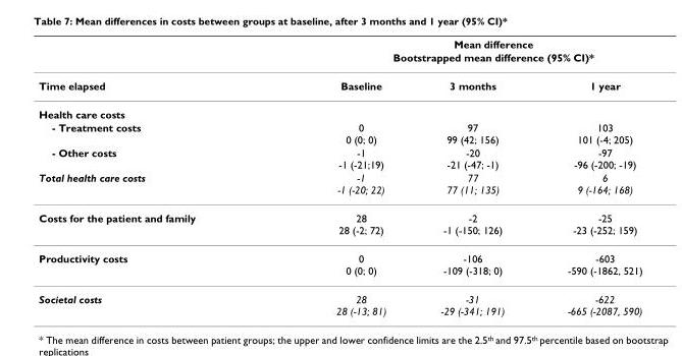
<table><thead><tr><td rowspan="3">Time elapsed</td><td rowspan="2" colspan="3">Mean difference Bootstrapped mean difference (95% CI)*</td></tr><tr></tr><tr><td>Baseline</td><td>3 months</td><td>1 year</td></tr></thead><tbody><tr><td colspan="4">Health care costs</td></tr><tr><td>- Treatment costs</td><td>0 0 (0; 0)</td><td>97 99 (42; 156)</td><td>103 101 (-4; 205)</td></tr><tr><td>- Other costs</td><td>-1 -1 (-21;19)</td><td>-20 -21 (-47; -1)</td><td>-97 -96 (-200; -19)</td></tr><tr><td>Total health care costs</td><td>-1 -1 (-20; 22)</td><td>77 77 (11; 135)</td><td>6 9 (-164; 168)</td></tr><tr><td>Costs for the patient and family</td><td>28 28 (-2; 72)</td><td>-2 -1 (-150; 126)</td><td>-25 -23 (-252; 159)</td></tr><tr><td>Productivity costs</td><td>0 0 (0; 0)</td><td>-106 -109 (-318; 0)</td><td>-603 -590 (-1862, 521)</td></tr><tr><td>Societal costs</td><td>28 28 (-13; 81)</td><td>-31 -29 (-341; 191)</td><td>-622 -665 (-2087, 590)</td></tr></tbody></table>